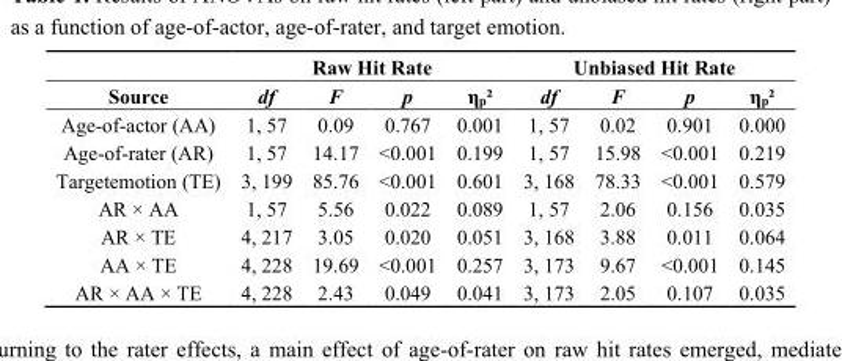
<table><thead><tr><td rowspan="2">Source</td><td colspan="4">Raw Hit Rate</td><td colspan="4">Unbiased Hit Rate</td></tr><tr><td>df</td><td>F</td><td>p</td><td>η<sub>p</sub>²</td><td>df</td><td>F</td><td>p</td><td>η<sub>p</sub>²</td></tr></thead><tbody><tr><td>Age-of-actor (AA)</td><td>1, 57</td><td>0.09</td><td>0.767</td><td>0.001</td><td>1, 57</td><td>0.02</td><td>0.901</td><td>0.000</td></tr><tr><td>Age-of-rater (AR)</td><td>1, 57</td><td>14.17</td><td>&lt;0.001</td><td>0.199</td><td>1, 57</td><td>15.98</td><td>&lt;0.001</td><td>0.219</td></tr><tr><td>Targetemotion (TE)</td><td>3, 199</td><td>85.76</td><td>&lt;0.001</td><td>0.601</td><td>3, 168</td><td>78.33</td><td>&lt;0.001</td><td>0.579</td></tr><tr><td>AR × AA</td><td>1, 57</td><td>5.56</td><td>0.022</td><td>0.089</td><td>1, 57</td><td>2.06</td><td>0.156</td><td>0.035</td></tr><tr><td>AR × TE</td><td>4, 217</td><td>3.05</td><td>0.020</td><td>0.051</td><td>3, 168</td><td>3.88</td><td>0.011</td><td>0.064</td></tr><tr><td>AA × TE</td><td>4, 228</td><td>19.69</td><td>&lt;0.001</td><td>0.257</td><td>3, 173</td><td>9.67</td><td>&lt;0.001</td><td>0.145</td></tr><tr><td>AR × AA × TE</td><td>4, 228</td><td>2.43</td><td>0.049</td><td>0.041</td><td>3, 173</td><td>2.05</td><td>0.107</td><td>0.035</td></tr></tbody></table>